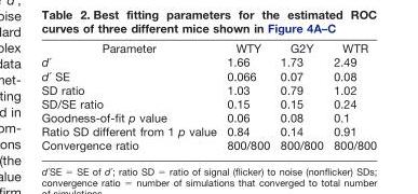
<table><thead><tr><td>Parameter</td><td>WTY</td><td>G2Y</td><td>WTR</td></tr></thead><tbody><tr><td>d´</td><td>1.66</td><td>1.73</td><td>2.49</td></tr><tr><td>d´ SE</td><td>0.066</td><td>0.07</td><td>0.08</td></tr><tr><td>SD ratio</td><td>1.03</td><td>0.79</td><td>1.02</td></tr><tr><td>SD/SE ratio</td><td>0.15</td><td>0.15</td><td>0.24</td></tr><tr><td>Goodness-of-fit p value</td><td>0.06</td><td>0.08</td><td>0.1</td></tr><tr><td>Ratio SD different from 1 p value</td><td>0.84</td><td>0.14</td><td>0.91</td></tr><tr><td>Convergence ratio</td><td>800/800</td><td>800/800</td><td>800/800</td></tr></tbody></table>